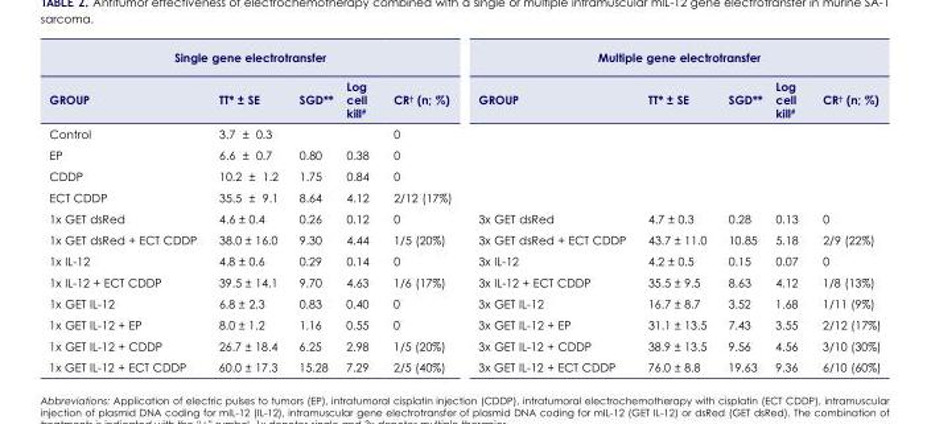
<table><thead><tr><td colspan="5">Single gene electrotransfer</td><td colspan="5">Multiple gene electrotransfer</td></tr><tr><td>Group</td><td>TT* ± SE</td><td>SGD**</td><td>Log cell kill<sup>#</sup></td><td>Cr<sup>†</sup> (n; %)</td><td>Group</td><td>TT* ± SE</td><td>SGD**</td><td>Log cell kill#</td><td>Cr† (n; %)</td></tr></thead><tbody><tr><td>Control</td><td>3.7 ± 0.3</td><td></td><td></td><td>0</td><td></td><td></td><td></td><td></td><td></td></tr><tr><td>EP</td><td>6.6 ± 0.7</td><td>0.80</td><td>0.38</td><td>0</td><td></td><td></td><td></td><td></td><td></td></tr><tr><td>CDDP</td><td>10.2 ± 1.2</td><td>1.75</td><td>0.84</td><td>0</td><td></td><td></td><td></td><td></td><td></td></tr><tr><td>ECT CDDP</td><td>35.5 ± 9.1</td><td>8.64</td><td>4.12</td><td>2/12 (17%)</td><td></td><td></td><td></td><td></td><td></td></tr><tr><td>1x GET dsRed</td><td>4.6 ± 0.4</td><td>0.26</td><td>0.12</td><td>0</td><td>3x GET dsRed</td><td>4.7 ± 0.3</td><td>0.28</td><td>0.13</td><td>0</td></tr><tr><td>1x GET dsRed + ECT CDDP</td><td>38.0 ± 16.0</td><td>9.30</td><td>4.44</td><td>1/5 (20%)</td><td>3x GET dsRed + ECT CDDP</td><td>43.7 ± 11.0</td><td>10.85</td><td>5.18</td><td>2/9 (22%)</td></tr><tr><td>1x IL-12</td><td>4.8 ± 0.6</td><td>0.29</td><td>0.14</td><td>0</td><td>3x IL-12</td><td>4.2 ± 0.5</td><td>0.15</td><td>0.07</td><td>0</td></tr><tr><td>1x IL-12 + ECT CDDP</td><td>39.5 ± 14.1</td><td>9.70</td><td>4.63</td><td>1/6 (17%)</td><td>3x IL-12 + ECT CDDP</td><td>35.5 ± 9.5</td><td>8.63</td><td>4.12</td><td>1/8 (13%)</td></tr><tr><td>1x GET IL-12</td><td>6.8 ± 2.3</td><td>0.83</td><td>0.40</td><td>0</td><td>3x GET IL-12</td><td>16.7 ± 8.7</td><td>3.52</td><td>1.68</td><td>1/11 (9%)</td></tr><tr><td>1x GET IL-12 + EP</td><td>8.0 ± 1.2</td><td>1.16</td><td>0.55</td><td>0</td><td>3x GET IL-12 + EP</td><td>31.1 ± 13.5</td><td>7.43</td><td>3.55</td><td>2/12 (17%)</td></tr><tr><td>1x GET IL-12 + CDDP</td><td>26.7 ± 18.4</td><td>6.25</td><td>2.98</td><td>1/5 (20%)</td><td>3x GET IL-12 + CDDP</td><td>38.9 ± 13.5</td><td>9.56</td><td>4.56</td><td>3/10 (30%)</td></tr><tr><td>1x GET IL-12 + ECT CDDP</td><td>60.0 ± 17.3</td><td>15.28</td><td>7.29</td><td>2/5 (40%)</td><td>3x GET IL-12 + ECT CDDP</td><td>76.0 ± 8.8</td><td>19.63</td><td>9.36</td><td>6/10 (60%)</td></tr></tbody></table>